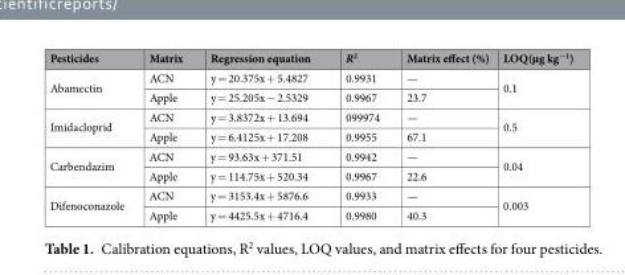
<table><thead><tr><td>Pesticides</td><td>Matrix</td><td>Regression equation</td><td>R<sup>2</sup></td><td>Matrix effect (%)</td><td>LOQ(µg kg<sup>−1</sup>)</td></tr></thead><tbody><tr><td rowspan="2">Abamectin</td><td>ACN</td><td>y = 20.375x + 5.4827</td><td>0.9931</td><td>—</td><td rowspan="2">0.1</td></tr><tr><td>Apple</td><td>y = 25.205x − 2.5329</td><td>0.9967</td><td>23.7</td></tr><tr><td rowspan="2">Imidacloprid</td><td>ACN</td><td>y = 3.8372x + 13.694</td><td>099974</td><td>—</td><td rowspan="2">0.5</td></tr><tr><td>Apple</td><td>y = 6.4125x + 17.208</td><td>0.9955</td><td>67.1</td></tr><tr><td rowspan="2">Carbendazim</td><td>ACN</td><td>y = 93.63x + 371.51</td><td>0.9942</td><td>—</td><td rowspan="2">0.04</td></tr><tr><td>Apple</td><td>y = 114.75x + 520.34</td><td>0.9967</td><td>22.6</td></tr><tr><td rowspan="2">Difenoconazole</td><td>ACN</td><td>y = 3153.4x + 5876.6</td><td>0.9933</td><td>—</td><td rowspan="2">0.003</td></tr><tr><td>Apple</td><td>y = 4425.5x + 4716.4</td><td>0.9980</td><td>40.3</td></tr></tbody></table>